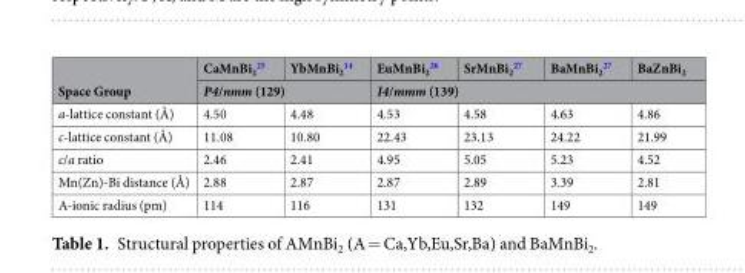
<table><thead><tr><td rowspan="2">Space Group</td><td>CaMnBi<sub>2</sub> <sup>25</sup></td><td>YbMnBi<sub>2</sub> <sup>14</sup></td><td>EuMnBi<sub>2</sub> <sup>26</sup></td><td>SrMnBi<sub>2</sub> <sup>27</sup></td><td>BaMnBi<sub>2</sub> <sup>27</sup></td><td>BaZnBi<sub>2</sub></td></tr><tr><td colspan="2">P4/nmm (129)</td><td colspan="4">I4/mmm (139)</td></tr></thead><tbody><tr><td>a-lattice constant (Å)</td><td>4.50</td><td>4.48</td><td>4.53</td><td>4.58</td><td>4.63</td><td>4.86</td></tr><tr><td>c-lattice constant (Å)</td><td>11.08</td><td>10.80</td><td>22.43</td><td>23.13</td><td>24.22</td><td>21.99</td></tr><tr><td>c/a ratio</td><td>2.46</td><td>2.41</td><td>4.95</td><td>5.05</td><td>5.23</td><td>4.52</td></tr><tr><td>Mn(Zn)-Bi distance (Å)</td><td>2.88</td><td>2.87</td><td>2.87</td><td>2.89</td><td>3.39</td><td>2.81</td></tr><tr><td>A-ionic radius (pm)</td><td>114</td><td>116</td><td>131</td><td>132</td><td>149</td><td>149</td></tr></tbody></table>